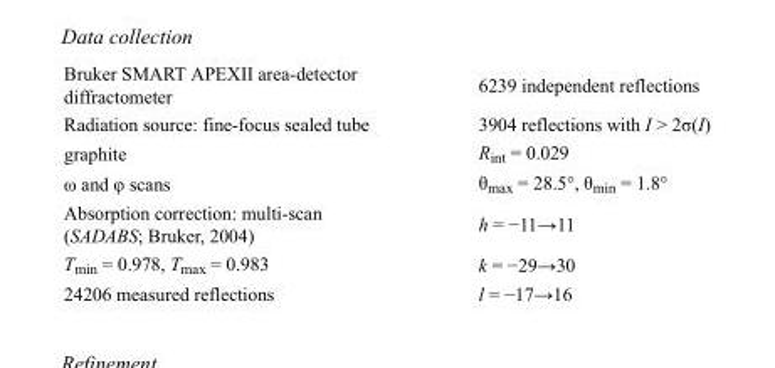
<table><tbody><tr><td>Bruker SMART APEXII area-detector diffractometer</td><td>6239 independent reflections</td></tr><tr><td>Radiation source: fine-focus sealed tube</td><td>3904 reflections with I &gt; 2σ(I)</td></tr><tr><td>graphite</td><td>R<sub>int</sub> = 0.029</td></tr><tr><td>ω and φ scans</td><td>θ<sub>max</sub> = 28.5°, θ<sub>min</sub> = 1.8°</td></tr><tr><td>Absorption correction: multi-scan (SADABS; Bruker, 2004)</td><td>h = −11→11</td></tr><tr><td>T<sub>min</sub> = 0.978, T<sub>max</sub> = 0.983</td><td>k = −29→30</td></tr><tr><td>24206 measured reflections</td><td>l = −17→16</td></tr></tbody></table>